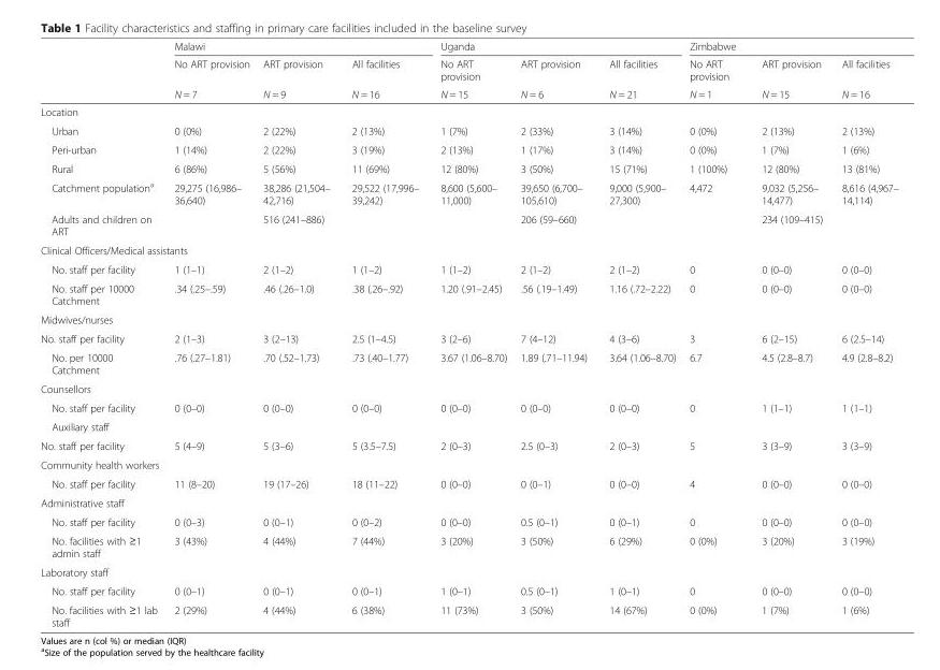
<table><thead><tr><td rowspan="3"></td><td colspan="3">Malawi</td><td colspan="3">Uganda</td><td colspan="3">Zimbabwe</td></tr><tr><td rowspan="2">No ART provision N = 7</td><td rowspan="2">ART provision N = 9</td><td rowspan="2">All facilities N = 16</td><td rowspan="2">No ART provision N = 15</td><td rowspan="2">ART provision N = 6</td><td rowspan="2">All facilities N = 21</td><td rowspan="2">No ART provision N = 1</td><td rowspan="2">ART provision N = 15</td><td rowspan="2">All facilities N = 16</td></tr><tr></tr></thead><tbody><tr><td colspan="10">Location</td></tr><tr><td>Urban</td><td>0 (0%)</td><td>2 (22%)</td><td>2 (13%)</td><td>1 (7%)</td><td>2 (33%)</td><td>3 (14%)</td><td>0 (0%)</td><td>2 (13%)</td><td>2 (13%)</td></tr><tr><td>Peri-urban</td><td>1 (14%)</td><td>2 (22%)</td><td>3 (19%)</td><td>2 (13%)</td><td>1 (17%)</td><td>3 (14%)</td><td>0 (0%)</td><td>1 (7%)</td><td>1 (6%)</td></tr><tr><td>Rural</td><td>6 (86%)</td><td>5 (56%)</td><td>11 (69%)</td><td>12 (80%)</td><td>3 (50%)</td><td>15 (71%)</td><td>1 (100%)</td><td>12 (80%)</td><td>13 (81%)</td></tr><tr><td>Catchment population<sup>a</sup></td><td>29,275 (16,986– 36,640)</td><td>38,286 (21,504– 42,716)</td><td>29,522 (17,996– 39,242)</td><td>8,600 (5,600– 11,000)</td><td>39,650 (6,700– 105,610)</td><td>9,000 (5,900– 27,300)</td><td>4,472</td><td>9,032 (5,256– 14,477)</td><td>8,616 (4,967– 14,114)</td></tr><tr><td>Adults and children on ART</td><td></td><td>516 (241–886)</td><td></td><td></td><td>206 (59–660)</td><td></td><td></td><td>234 (109–415)</td><td></td></tr><tr><td colspan="10">Clinical Officers/Medical assistants</td></tr><tr><td>No. staff per facility</td><td>1 (1–1)</td><td>2 (1–2)</td><td>1 (1–2)</td><td>1 (1–2)</td><td>2 (1–2)</td><td>2 (1–2)</td><td>0</td><td>0 (0–0)</td><td>0 (0–0)</td></tr><tr><td>No. staff per 10000 Catchment</td><td>.34 (.25–.59)</td><td>.46 (.26–1.0)</td><td>.38 (.26–.92)</td><td>1.20 (.91–2.45)</td><td>.56 (.19–1.49)</td><td>1.16 (.72–2.22)</td><td>0</td><td>0 (0–0)</td><td>0 (0–0)</td></tr><tr><td colspan="10">Midwives/nurses</td></tr><tr><td>No. staff per facility</td><td>2 (1–3)</td><td>3 (2–13)</td><td>2.5 (1–4.5)</td><td>3 (2–6)</td><td>7 (4–12)</td><td>4 (3–6)</td><td>3</td><td>6 (2–15)</td><td>6 (2.5–14)</td></tr><tr><td>No. per 10000 Catchment</td><td>.76 (.27–1.81)</td><td>.70 (.52–1.73)</td><td>.73 (.40–1.77)</td><td>3.67 (1.06–8.70)</td><td>1.89 (.71–11.94)</td><td>3.64 (1.06–8.70)</td><td>6.7</td><td>4.5 (2.8–8.7)</td><td>4.9 (2.8–8.2)</td></tr><tr><td colspan="10">Counsellors</td></tr><tr><td>No. staff per facility</td><td>0 (0–0)</td><td>0 (0–0)</td><td>0 (0–0)</td><td>0 (0–0)</td><td>0 (0–0)</td><td>0 (0–0)</td><td>0</td><td>1 (1–1)</td><td>1 (1–1)</td></tr><tr><td colspan="10">Auxiliary staff</td></tr><tr><td>No. staff per facility</td><td>5 (4–9)</td><td>5 (3–6)</td><td>5 (3.5–7.5)</td><td>2 (0–3)</td><td>2.5 (0–3)</td><td>2 (0–3)</td><td>5</td><td>3 (3–9)</td><td>3 (3–9)</td></tr><tr><td colspan="10">Community health workers</td></tr><tr><td>No. staff per facility</td><td>11 (8–20)</td><td>19 (17–26)</td><td>18 (11–22)</td><td>0 (0–0)</td><td>0 (0–1)</td><td>0 (0–0)</td><td>4</td><td>0 (0–0)</td><td>0 (0–0)</td></tr><tr><td colspan="10">Administrative staff</td></tr><tr><td>No. staff per facility</td><td>0 (0–3)</td><td>0 (0–1)</td><td>0 (0–2)</td><td>0 (0–0)</td><td>0.5 (0–1)</td><td>0 (0–1)</td><td>0</td><td>0 (0–0)</td><td>0 (0–0)</td></tr><tr><td>No. facilities with ≥1 admin staff</td><td>3 (43%)</td><td>4 (44%)</td><td>7 (44%)</td><td>3 (20%)</td><td>3 (50%)</td><td>6 (29%)</td><td>0 (0%)</td><td>3 (20%)</td><td>3 (19%)</td></tr><tr><td colspan="10">Laboratory staff</td></tr><tr><td>No. staff per facility</td><td>0 (0–1)</td><td>0 (0–1)</td><td>0 (0–1)</td><td>1 (0–1)</td><td>0.5 (0–1)</td><td>1 (0–1)</td><td>0</td><td>0 (0–0)</td><td>0 (0–0)</td></tr><tr><td>No. facilities with ≥1 lab staff</td><td>2 (29%)</td><td>4 (44%)</td><td>6 (38%)</td><td>11 (73%)</td><td>3 (50%)</td><td>14 (67%)</td><td>0 (0%)</td><td>1 (7%)</td><td>1 (6%)</td></tr></tbody></table>